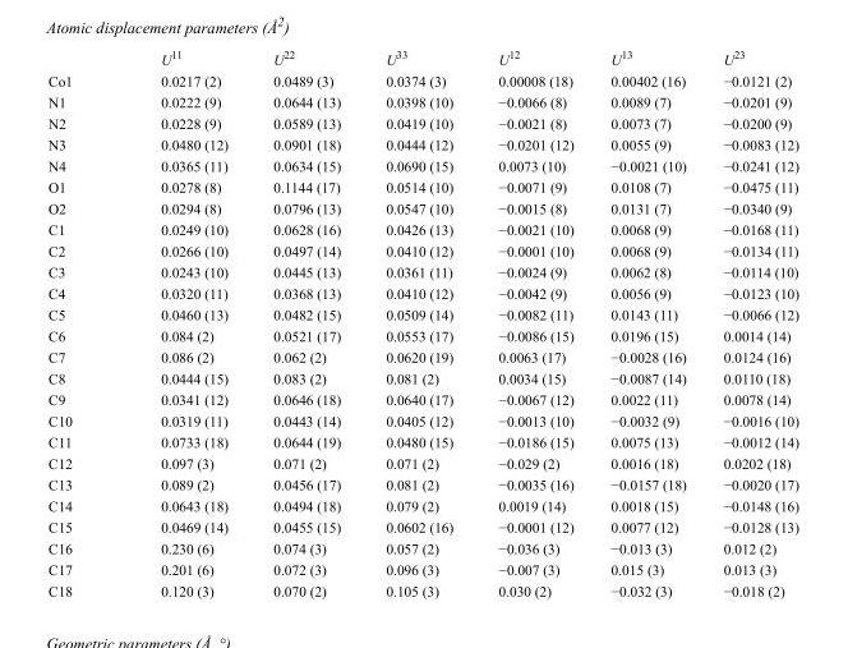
<table><thead><tr><td></td><td>U<sup>11</sup></td><td>U<sup>22</sup></td><td>U<sup>33</sup></td><td>U<sup>12</sup></td><td>U<sup>13</sup></td><td>U<sup>23</sup></td></tr></thead><tbody><tr><td>Co1</td><td>0.0217 (2)</td><td>0.0489 (3)</td><td>0.0374 (3)</td><td>0.00008 (18)</td><td>0.00402 (16)</td><td>−0.0121 (2)</td></tr><tr><td>N1</td><td>0.0222 (9)</td><td>0.0644 (13)</td><td>0.0398 (10)</td><td>−0.0066 (8)</td><td>0.0089 (7)</td><td>−0.0201 (9)</td></tr><tr><td>N2</td><td>0.0228 (9)</td><td>0.0589 (13)</td><td>0.0419 (10)</td><td>−0.0021 (8)</td><td>0.0073 (7)</td><td>−0.0200 (9)</td></tr><tr><td>N3</td><td>0.0480 (12)</td><td>0.0901 (18)</td><td>0.0444 (12)</td><td>−0.0201 (12)</td><td>0.0055 (9)</td><td>−0.0083 (12)</td></tr><tr><td>N4</td><td>0.0365 (11)</td><td>0.0634 (15)</td><td>0.0690 (15)</td><td>0.0073 (10)</td><td>−0.0021 (10)</td><td>−0.0241 (12)</td></tr><tr><td>O1</td><td>0.0278 (8)</td><td>0.1144 (17)</td><td>0.0514 (10)</td><td>−0.0071 (9)</td><td>0.0108 (7)</td><td>−0.0475 (11)</td></tr><tr><td>O2</td><td>0.0294 (8)</td><td>0.0796 (13)</td><td>0.0547 (10)</td><td>−0.0015 (8)</td><td>0.0131 (7)</td><td>−0.0340 (9)</td></tr><tr><td>C1</td><td>0.0249 (10)</td><td>0.0628 (16)</td><td>0.0426 (13)</td><td>−0.0021 (10)</td><td>0.0068 (9)</td><td>−0.0168 (11)</td></tr><tr><td>C2</td><td>0.0266 (10)</td><td>0.0497 (14)</td><td>0.0410 (12)</td><td>−0.0001 (10)</td><td>0.0068 (9)</td><td>−0.0134 (11)</td></tr><tr><td>C3</td><td>0.0243 (10)</td><td>0.0445 (13)</td><td>0.0361 (11)</td><td>−0.0024 (9)</td><td>0.0062 (8)</td><td>−0.0114 (10)</td></tr><tr><td>C4</td><td>0.0320 (11)</td><td>0.0368 (13)</td><td>0.0410 (12)</td><td>−0.0042 (9)</td><td>0.0056 (9)</td><td>−0.0123 (10)</td></tr><tr><td>C5</td><td>0.0460 (13)</td><td>0.0482 (15)</td><td>0.0509 (14)</td><td>−0.0082 (11)</td><td>0.0143 (11)</td><td>−0.0066 (12)</td></tr><tr><td>C6</td><td>0.084 (2)</td><td>0.0521 (17)</td><td>0.0553 (17)</td><td>−0.0086 (15)</td><td>0.0196 (15)</td><td>0.0014 (14)</td></tr><tr><td>C7</td><td>0.086 (2)</td><td>0.062 (2)</td><td>0.0620 (19)</td><td>0.0063 (17)</td><td>−0.0028 (16)</td><td>0.0124 (16)</td></tr><tr><td>C8</td><td>0.0444 (15)</td><td>0.083 (2)</td><td>0.081 (2)</td><td>0.0034 (15)</td><td>−0.0087 (14)</td><td>0.0110 (18)</td></tr><tr><td>C9</td><td>0.0341 (12)</td><td>0.0646 (18)</td><td>0.0640 (17)</td><td>−0.0067 (12)</td><td>0.0022 (11)</td><td>0.0078 (14)</td></tr><tr><td>C10</td><td>0.0319 (11)</td><td>0.0443 (14)</td><td>0.0405 (12)</td><td>−0.0013 (10)</td><td>−0.0032 (9)</td><td>−0.0016 (10)</td></tr><tr><td>C11</td><td>0.0733 (18)</td><td>0.0644 (19)</td><td>0.0480 (15)</td><td>−0.0186 (15)</td><td>0.0075 (13)</td><td>−0.0012 (14)</td></tr><tr><td>C12</td><td>0.097 (3)</td><td>0.071 (2)</td><td>0.071 (2)</td><td>−0.029 (2)</td><td>0.0016 (18)</td><td>0.0202 (18)</td></tr><tr><td>C13</td><td>0.089 (2)</td><td>0.0456 (17)</td><td>0.081 (2)</td><td>−0.0035 (16)</td><td>−0.0157 (18)</td><td>−0.0020 (17)</td></tr><tr><td>C14</td><td>0.0643 (18)</td><td>0.0494 (18)</td><td>0.079 (2)</td><td>0.0019 (14)</td><td>0.0018 (15)</td><td>−0.0148 (16)</td></tr><tr><td>C15</td><td>0.0469 (14)</td><td>0.0455 (15)</td><td>0.0602 (16)</td><td>−0.0001 (12)</td><td>0.0077 (12)</td><td>−0.0128 (13)</td></tr><tr><td>C16</td><td>0.230 (6)</td><td>0.074 (3)</td><td>0.057 (2)</td><td>−0.036 (3)</td><td>−0.013 (3)</td><td>0.012 (2)</td></tr><tr><td>C17</td><td>0.201 (6)</td><td>0.072 (3)</td><td>0.096 (3)</td><td>−0.007 (3)</td><td>0.015 (3)</td><td>0.013 (3)</td></tr><tr><td>C18</td><td>0.120 (3)</td><td>0.070 (2)</td><td>0.105 (3)</td><td>0.030 (2)</td><td>−0.032 (3)</td><td>−0.018 (2)</td></tr></tbody></table>